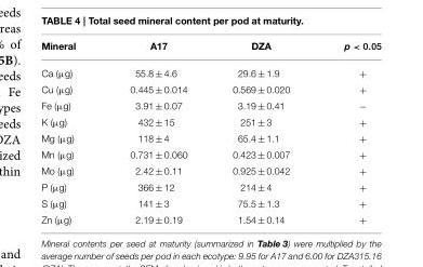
<table><thead><tr><td>Mineral</td><td>A17</td><td>DZA</td><td>p &lt; 0.05</td></tr></thead><tbody><tr><td>Ca (µg)</td><td>55.8 ± 4.6</td><td>29.6 ± 1.9</td><td>+</td></tr><tr><td>Cu (µg)</td><td>0.445 ± 0.014</td><td>0.569 ± 0.020</td><td>+</td></tr><tr><td>Fe (µg)</td><td>3.91 ± 0.07</td><td>3.19 ± 0.41</td><td>−</td></tr><tr><td>K (µg)</td><td>432 ± 15</td><td>251 ± 3</td><td>+</td></tr><tr><td>Mg (µg)</td><td>118 ± 4</td><td>65.4 ± 1.1</td><td>+</td></tr><tr><td>Mn (µg)</td><td>0.731 ± 0.060</td><td>0.423 ± 0.007</td><td>+</td></tr><tr><td>Mo (µg)</td><td>2.42 ± 0.11</td><td>0.925 ± 0.042</td><td>+</td></tr><tr><td>P (µg)</td><td>366 ± 12</td><td>214 ± 4</td><td>+</td></tr><tr><td>S (µg)</td><td>141 ± 3</td><td>75.5 ± 1.3</td><td>+</td></tr><tr><td>Zn (µg)</td><td>2.19 ± 0.19</td><td>1.54 ± 0.14</td><td>+</td></tr></tbody></table>